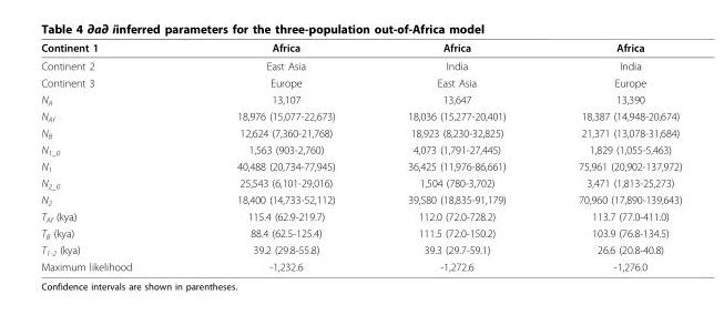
<table><thead><tr><td>Continent 1</td><td>Africa</td><td>Africa</td><td>Africa</td></tr></thead><tbody><tr><td>Continent 2</td><td>East Asia</td><td>India</td><td>India</td></tr><tr><td>Continent 3</td><td>Europe</td><td>East Asia</td><td>Europe</td></tr><tr><td>N<sub>A</sub></td><td>13,107</td><td>13,647</td><td>13,390</td></tr><tr><td>N<sub>Af</sub></td><td>18,976 (15,077-22,673)</td><td>18,036 (15,277-20,401)</td><td>18,387 (14,948-20,674)</td></tr><tr><td>N<sub>B</sub></td><td>12,624 (7,360-21,768)</td><td>18,923 (8,230-32,825)</td><td>21,371 (13,078-31,684)</td></tr><tr><td>N<sub>1_0</sub></td><td>1,563 (903-2,760)</td><td>4,073 (1,791-27,445)</td><td>1,829 (1,055-5,463)</td></tr><tr><td>N<sub>1</sub></td><td>40,488 (20,734-77,945)</td><td>36,425 (11,976-86,661)</td><td>75,961 (20,902-137,972)</td></tr><tr><td>N<sub>2_0</sub></td><td>25,543 (6,101-29,016)</td><td>1,504 (780-3,702)</td><td>3,471 (1,813-25,273)</td></tr><tr><td>N<sub>2</sub></td><td>18,400 (14,733-52,112)</td><td>39,580 (18,835-91,179)</td><td>70,960 (17,890-139,643)</td></tr><tr><td>T<sub>Af</sub> (kya)</td><td>115.4 (62.9-219.7)</td><td>112.0 (72.0-728.2)</td><td>113.7 (77.0-411.0)</td></tr><tr><td>T<sub>B</sub> (kya)</td><td>88.4 (62.5-125.4)</td><td>111.5 (72.0-150.2)</td><td>103.9 (76.8-134.5)</td></tr><tr><td>T<sub>1-2</sub> (kya)</td><td>39.2 (29.8-55.8)</td><td>39.3 (29.7-59.1)</td><td>26.6 (20.8-40.8)</td></tr><tr><td>Maximum likelihood</td><td>-1,232.6</td><td>-1,272.6</td><td>-1,276.0</td></tr></tbody></table>